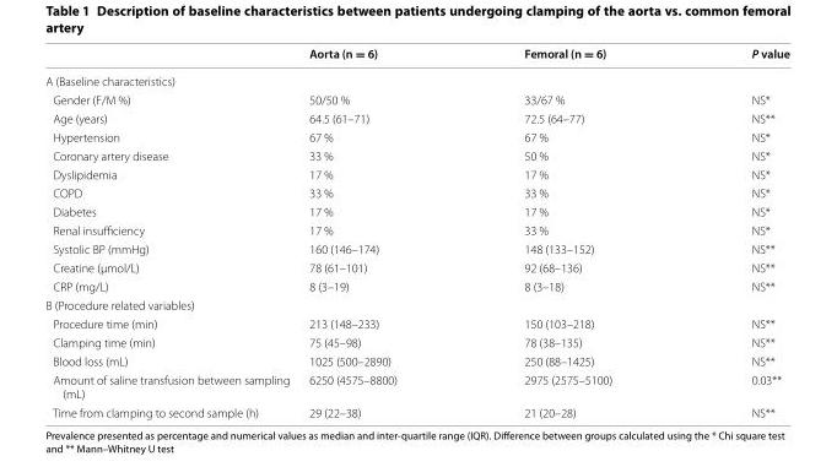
<table><thead><tr><td></td><td>Aorta (n = 6)</td><td>Femoral (n = 6)</td><td>P value</td></tr></thead><tbody><tr><td colspan="4">A (Baseline characteristics)</td></tr><tr><td>Gender (F/M %)</td><td>50/50 %</td><td>33/67 %</td><td>NS*</td></tr><tr><td>Age (years)</td><td>64.5 (61–71)</td><td>72.5 (64–77)</td><td>NS**</td></tr><tr><td>Hypertension</td><td>67 %</td><td>67 %</td><td>NS*</td></tr><tr><td>Coronary artery disease</td><td>33 %</td><td>50 %</td><td>NS*</td></tr><tr><td>Dyslipidemia</td><td>17 %</td><td>17 %</td><td>NS*</td></tr><tr><td>COPD</td><td>33 %</td><td>33 %</td><td>NS*</td></tr><tr><td>Diabetes</td><td>17 %</td><td>17 %</td><td>NS*</td></tr><tr><td>Renal insufficiency</td><td>17 %</td><td>33 %</td><td>NS*</td></tr><tr><td>Systolic BP (mmHg)</td><td>160 (146–174)</td><td>148 (133–152)</td><td>NS**</td></tr><tr><td>Creatine (μmol/L)</td><td>78 (61–101)</td><td>92 (68–136)</td><td>NS**</td></tr><tr><td>CRP (mg/L)</td><td>8 (3–19)</td><td>8 (3–18)</td><td>NS**</td></tr><tr><td colspan="4">B (Procedure related variables)</td></tr><tr><td>Procedure time (min)</td><td>213 (148–233)</td><td>150 (103–218)</td><td>NS**</td></tr><tr><td>Clamping time (min)</td><td>75 (45–98)</td><td>78 (38–135)</td><td>NS**</td></tr><tr><td>Blood loss (mL)</td><td>1025 (500–2890)</td><td>250 (88–1425)</td><td>NS**</td></tr><tr><td>Amount of saline transfusion between sampling (mL)</td><td>6250 (4575–8800)</td><td>2975 (2575–5100)</td><td>0.03**</td></tr><tr><td>Time from clamping to second sample (h)</td><td>29 (22–38)</td><td>21 (20–28)</td><td>NS**</td></tr></tbody></table>